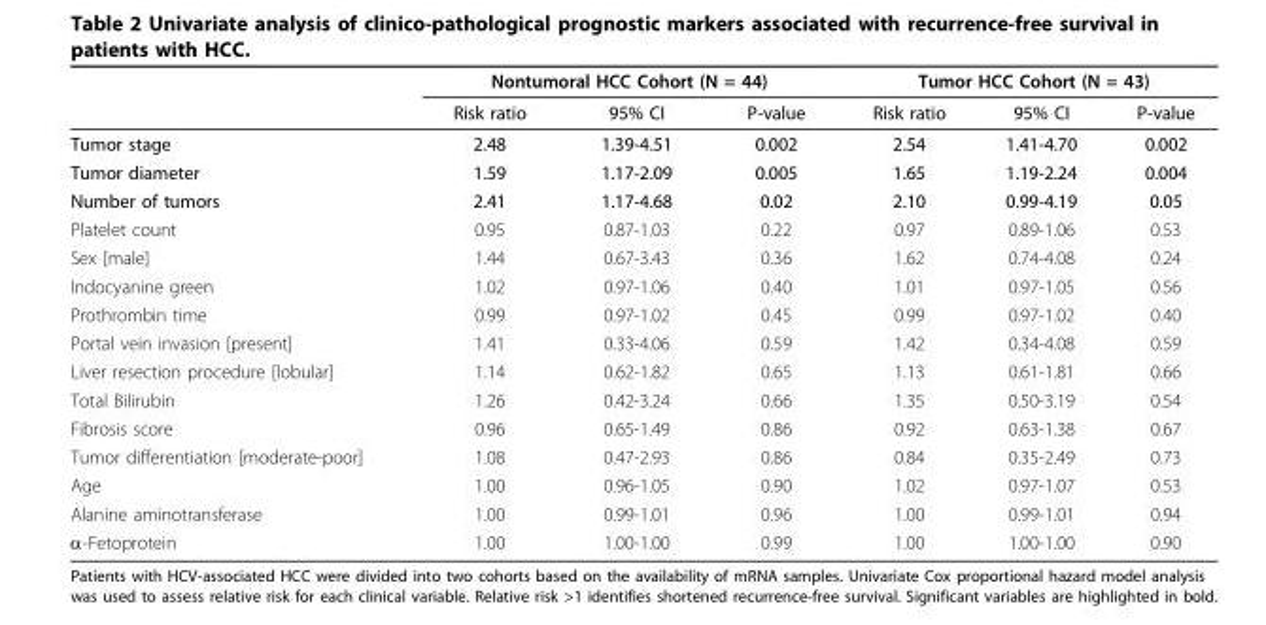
<table><thead><tr><td rowspan="2"></td><td colspan="3">Nontumoral HCC Cohort (N = 44)</td><td colspan="3">Tumor HCC Cohort (N = 43)</td></tr><tr><td>Risk ratio</td><td>95% CI</td><td>P-value</td><td>Risk ratio</td><td>95% CI</td><td>P-value</td></tr></thead><tbody><tr><td>Tumor stage</td><td>2.48</td><td>1.39-4.51</td><td>0.002</td><td>2.54</td><td>1.41-4.70</td><td>0.002</td></tr><tr><td>Tumor diameter</td><td>1.59</td><td>1.17-2.09</td><td>0.005</td><td>1.65</td><td>1.19-2.24</td><td>0.004</td></tr><tr><td>Number of tumors</td><td>2.41</td><td>1.17-4.68</td><td>0.02</td><td>2.10</td><td>0.99-4.19</td><td>0.05</td></tr><tr><td>Platelet count</td><td>0.95</td><td>0.87-1.03</td><td>0.22</td><td>0.97</td><td>0.89-1.06</td><td>0.53</td></tr><tr><td>Sex [male]</td><td>1.44</td><td>0.67-3.43</td><td>0.36</td><td>1.62</td><td>0.74-4.08</td><td>0.24</td></tr><tr><td>Indocyanine green</td><td>1.02</td><td>0.97-1.06</td><td>0.40</td><td>1.01</td><td>0.97-1.05</td><td>0.56</td></tr><tr><td>Prothrombin time</td><td>0.99</td><td>0.97-1.02</td><td>0.45</td><td>0.99</td><td>0.97-1.02</td><td>0.40</td></tr><tr><td>Portal vein invasion [present]</td><td>1.41</td><td>0.33-4.06</td><td>0.59</td><td>1.42</td><td>0.34-4.08</td><td>0.59</td></tr><tr><td>Liver resection procedure [lobular]</td><td>1.14</td><td>0.62-1.82</td><td>0.65</td><td>1.13</td><td>0.61-1.81</td><td>0.66</td></tr><tr><td>Total Bilirubin</td><td>1.26</td><td>0.42-3.24</td><td>0.66</td><td>1.35</td><td>0.50-3.19</td><td>0.54</td></tr><tr><td>Fibrosis score</td><td>0.96</td><td>0.65-1.49</td><td>0.86</td><td>0.92</td><td>0.63-1.38</td><td>0.67</td></tr><tr><td>Tumor differentiation [moderate-poor]</td><td>1.08</td><td>0.47-2.93</td><td>0.86</td><td>0.84</td><td>0.35-2.49</td><td>0.73</td></tr><tr><td>Age</td><td>1.00</td><td>0.96-1.05</td><td>0.90</td><td>1.02</td><td>0.97-1.07</td><td>0.53</td></tr><tr><td>Alanine aminotransferase</td><td>1.00</td><td>0.99-1.01</td><td>0.96</td><td>1.00</td><td>0.99-1.01</td><td>0.94</td></tr><tr><td>α-Fetoprotein</td><td>1.00</td><td>1.00-1.00</td><td>0.99</td><td>1.00</td><td>1.00-1.00</td><td>0.90</td></tr></tbody></table>